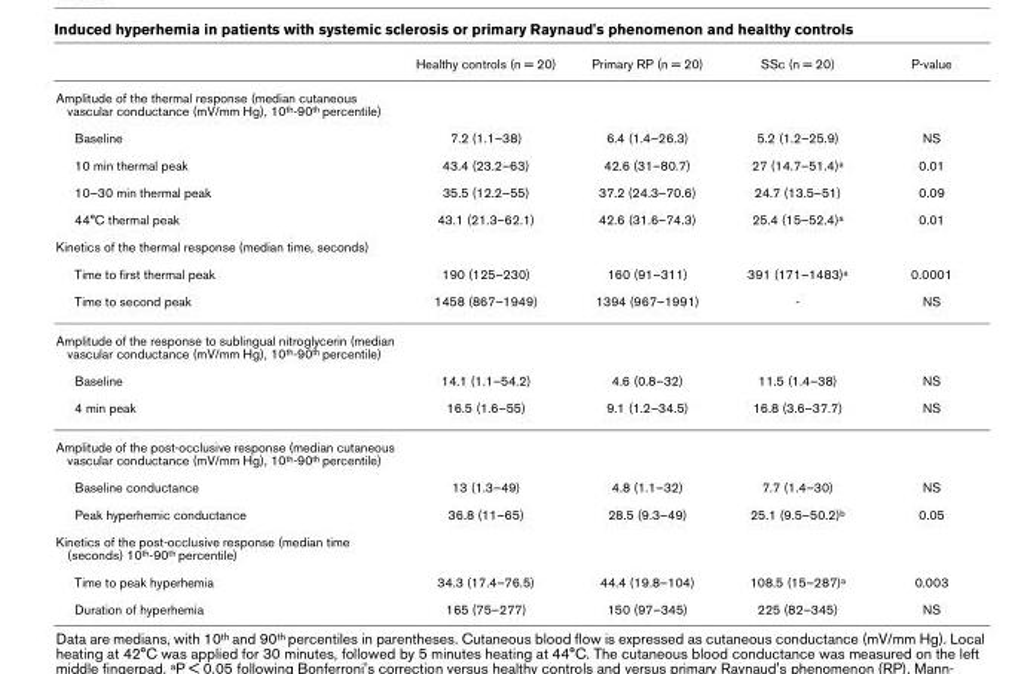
<table><thead><tr><td></td><td>Healthy controls (n = 20)</td><td>Primary RP (n = 20)</td><td>SSc (n = 20)</td><td>P-value</td></tr></thead><tbody><tr><td colspan="5">Amplitude of the thermal response (median cutaneous vascular conductance (mV/mm Hg), 10th-90th percentile)</td></tr><tr><td>Baseline</td><td>7.2 (1.1–38)</td><td>6.4 (1.4–26.3)</td><td>5.2 (1.2–25.9)</td><td>NS</td></tr><tr><td>10 min thermal peak</td><td>43.4 (23.2–63)</td><td>42.6 (31–80.7)</td><td>27 (14.7–51.4)a</td><td>0.01</td></tr><tr><td>10–30 min thermal peak</td><td>35.5 (12.2–55)</td><td>37.2 (24.3–70.6)</td><td>24.7 (13.5–51)</td><td>0.09</td></tr><tr><td>44°C thermal peak</td><td>43.1 (21.3–62.1)</td><td>42.6 (31.6–74.3)</td><td>25.4 (15–52.4)a</td><td>0.01</td></tr><tr><td colspan="5">Kinetics of the thermal response (median time, seconds)</td></tr><tr><td>Time to first thermal peak</td><td>190 (125–230)</td><td>160 (91–311)</td><td>391 (171–1483)a</td><td>0.0001</td></tr><tr><td>Time to second peak</td><td>1458 (867–1949)</td><td>1394 (967–1991)</td><td>-</td><td>NS</td></tr><tr><td colspan="5">Amplitude of the response to sublingual nitroglycerin (median vascular conductance (mV/mm Hg), 10th-90th percentile)</td></tr><tr><td>Baseline</td><td>14.1 (1.1–54.2)</td><td>4.6 (0.8–32)</td><td>11.5 (1.4–38)</td><td>NS</td></tr><tr><td>4 min peak</td><td>16.5 (1.6–55)</td><td>9.1 (1.2–34.5)</td><td>16.8 (3.6–37.7)</td><td>NS</td></tr><tr><td colspan="5">Amplitude of the post-occlusive response (median cutaneous vascular conductance (mV/mm Hg), 10th-90th percentile)</td></tr><tr><td>Baseline conductance</td><td>13 (1.3–49)</td><td>4.8 (1.1–32)</td><td>7.7 (1.4–30)</td><td>NS</td></tr><tr><td>Peak hyperhemic conductance</td><td>36.8 (11–65)</td><td>28.5 (9.3–49)</td><td>25.1 (9.5–50.2)b</td><td>0.05</td></tr><tr><td colspan="5">Kinetics of the post-occlusive response (median time (seconds) 10th-90th percentile)</td></tr><tr><td>Time to peak hyperhemia</td><td>34.3 (17.4–76.5)</td><td>44.4 (19.8–104)</td><td>108.5 (15–287)a</td><td>0.003</td></tr><tr><td>Duration of hyperhemia</td><td>165 (75–277)</td><td>150 (97–345)</td><td>225 (82–345)</td><td>NS</td></tr></tbody></table>